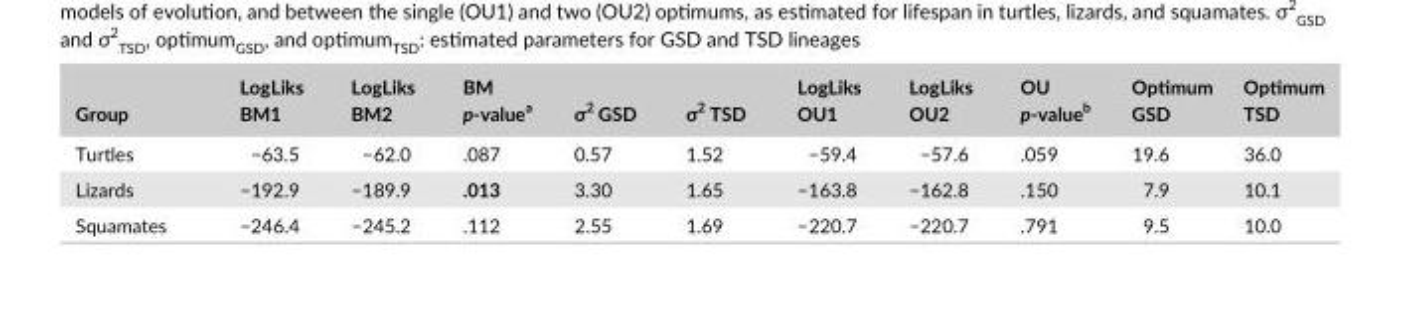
<table><thead><tr><td>Group</td><td>LogLiks BM1</td><td>LogLiks BM2</td><td>BM p- value<sup>a</sup></td><td>σ<sup>2</sup> GSD</td><td>σ<sup>2</sup> TSD</td><td>LogLiks OU1</td><td>LogLiks OU2</td><td>OU p- value<sup>b</sup></td><td>Optimum GSD</td><td>Optimum TSD</td></tr></thead><tbody><tr><td>Turtles</td><td>−63.5</td><td>−62.0</td><td>.087</td><td>0.57</td><td>1.52</td><td>−59.4</td><td>−57.6</td><td>.059</td><td>19.6</td><td>36.0</td></tr><tr><td>Lizards</td><td>−192.9</td><td>−189.9</td><td>.013</td><td>3.30</td><td>1.65</td><td>−163.8</td><td>−162.8</td><td>.150</td><td>7.9</td><td>10.1</td></tr><tr><td>Squamates</td><td>−246.4</td><td>−245.2</td><td>.112</td><td>2.55</td><td>1.69</td><td>−220.7</td><td>−220.7</td><td>.791</td><td>9.5</td><td>10.0</td></tr></tbody></table>